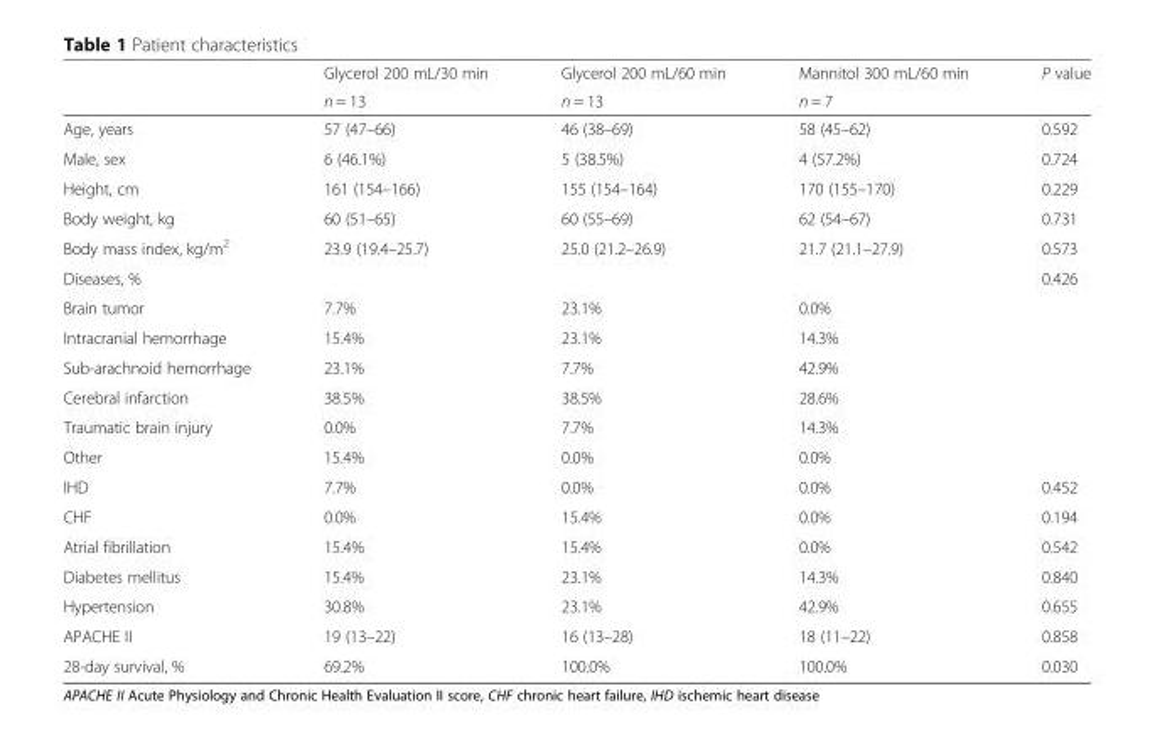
<table><thead><tr><td rowspan="2"></td><td rowspan="2">Glycerol 200 mL/30 min n = 13</td><td rowspan="2">Glycerol 200 mL/60 min n = 13</td><td rowspan="2">Mannitol 300 mL/60 min n = 7</td><td rowspan="2">P value</td></tr><tr></tr></thead><tbody><tr><td>Age, years</td><td>57 (47–66)</td><td>46 (38–69)</td><td>58 (45–62)</td><td>0.592</td></tr><tr><td>Male, sex</td><td>6 (46.1%)</td><td>5 (38.5%)</td><td>4 (57.2%)</td><td>0.724</td></tr><tr><td>Height, cm</td><td>161 (154–166)</td><td>155 (154–164)</td><td>170 (155–170)</td><td>0.229</td></tr><tr><td>Body weight, kg</td><td>60 (51–65)</td><td>60 (55–69)</td><td>62 (54–67)</td><td>0.731</td></tr><tr><td>Body mass index, kg/m<sup>2</sup></td><td>23.9 (19.4–25.7)</td><td>25.0 (21.2–26.9)</td><td>21.7 (21.1–27.9)</td><td>0.573</td></tr><tr><td>Diseases, %</td><td></td><td></td><td></td><td>0.426</td></tr><tr><td>Brain tumor</td><td>7.7%</td><td>23.1%</td><td>0.0%</td><td></td></tr><tr><td>Intracranial hemorrhage</td><td>15.4%</td><td>23.1%</td><td>14.3%</td><td></td></tr><tr><td>Sub-arachnoid hemorrhage</td><td>23.1%</td><td>7.7%</td><td>42.9%</td><td></td></tr><tr><td>Cerebral infarction</td><td>38.5%</td><td>38.5%</td><td>28.6%</td><td></td></tr><tr><td>Traumatic brain injury</td><td>0.0%</td><td>7.7%</td><td>14.3%</td><td></td></tr><tr><td>Other</td><td>15.4%</td><td>0.0%</td><td>0.0%</td><td></td></tr><tr><td>IHD</td><td>7.7%</td><td>0.0%</td><td>0.0%</td><td>0.452</td></tr><tr><td>CHF</td><td>0.0%</td><td>15.4%</td><td>0.0%</td><td>0.194</td></tr><tr><td>Atrial fibrillation</td><td>15.4%</td><td>15.4%</td><td>0.0%</td><td>0.542</td></tr><tr><td>Diabetes mellitus</td><td>15.4%</td><td>23.1%</td><td>14.3%</td><td>0.840</td></tr><tr><td>Hypertension</td><td>30.8%</td><td>23.1%</td><td>42.9%</td><td>0.655</td></tr><tr><td>APACHE II</td><td>19 (13–22)</td><td>16 (13–28)</td><td>18 (11–22)</td><td>0.858</td></tr><tr><td>28-day survival, %</td><td>69.2%</td><td>100.0%</td><td>100.0%</td><td>0.030</td></tr></tbody></table>